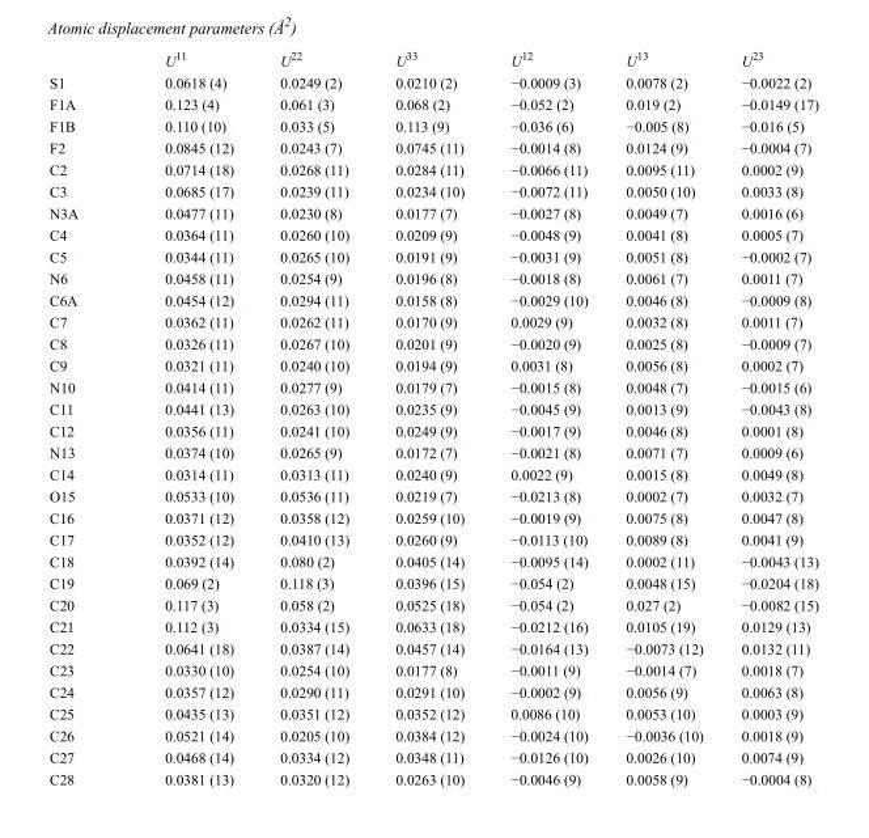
<table><thead><tr><td></td><td>U<sup>11</sup></td><td>U<sup>22</sup></td><td>U<sup>33</sup></td><td>U<sup>12</sup></td><td>U<sup>13</sup></td><td>U<sup>23</sup></td></tr></thead><tbody><tr><td>S1</td><td>0.0618 (4)</td><td>0.0249 (2)</td><td>0.0210 (2)</td><td>−0.0009 (3)</td><td>0.0078 (2)</td><td>−0.0022 (2)</td></tr><tr><td>F1A</td><td>0.123 (4)</td><td>0.061 (3)</td><td>0.068 (2)</td><td>−0.052 (2)</td><td>0.019 (2)</td><td>−0.0149 (17)</td></tr><tr><td>F1B</td><td>0.110 (10)</td><td>0.033 (5)</td><td>0.113 (9)</td><td>−0.036 (6)</td><td>−0.005 (8)</td><td>−0.016 (5)</td></tr><tr><td>F2</td><td>0.0845 (12)</td><td>0.0243 (7)</td><td>0.0745 (11)</td><td>−0.0014 (8)</td><td>0.0124 (9)</td><td>−0.0004 (7)</td></tr><tr><td>C2</td><td>0.0714 (18)</td><td>0.0268 (11)</td><td>0.0284 (11)</td><td>−0.0066 (11)</td><td>0.0095 (11)</td><td>0.0002 (9)</td></tr><tr><td>C3</td><td>0.0685 (17)</td><td>0.0239 (11)</td><td>0.0234 (10)</td><td>−0.0072 (11)</td><td>0.0050 (10)</td><td>0.0033 (8)</td></tr><tr><td>N3A</td><td>0.0477 (11)</td><td>0.0230 (8)</td><td>0.0177 (7)</td><td>−0.0027 (8)</td><td>0.0049 (7)</td><td>0.0016 (6)</td></tr><tr><td>C4</td><td>0.0364 (11)</td><td>0.0260 (10)</td><td>0.0209 (9)</td><td>−0.0048 (9)</td><td>0.0041 (8)</td><td>0.0005 (7)</td></tr><tr><td>C5</td><td>0.0344 (11)</td><td>0.0265 (10)</td><td>0.0191 (9)</td><td>−0.0031 (9)</td><td>0.0051 (8)</td><td>−0.0002 (7)</td></tr><tr><td>N6</td><td>0.0458 (11)</td><td>0.0254 (9)</td><td>0.0196 (8)</td><td>−0.0018 (8)</td><td>0.0061 (7)</td><td>0.0011 (7)</td></tr><tr><td>C6A</td><td>0.0454 (12)</td><td>0.0294 (11)</td><td>0.0158 (8)</td><td>−0.0029 (10)</td><td>0.0046 (8)</td><td>−0.0009 (8)</td></tr><tr><td>C7</td><td>0.0362 (11)</td><td>0.0262 (11)</td><td>0.0170 (9)</td><td>0.0029 (9)</td><td>0.0032 (8)</td><td>0.0011 (7)</td></tr><tr><td>C8</td><td>0.0326 (11)</td><td>0.0267 (10)</td><td>0.0201 (9)</td><td>−0.0020 (9)</td><td>0.0025 (8)</td><td>−0.0009 (7)</td></tr><tr><td>C9</td><td>0.0321 (11)</td><td>0.0240 (10)</td><td>0.0194 (9)</td><td>0.0031 (8)</td><td>0.0056 (8)</td><td>0.0002 (7)</td></tr><tr><td>N10</td><td>0.0414 (11)</td><td>0.0277 (9)</td><td>0.0179 (7)</td><td>−0.0015 (8)</td><td>0.0048 (7)</td><td>−0.0015 (6)</td></tr><tr><td>C11</td><td>0.0441 (13)</td><td>0.0263 (10)</td><td>0.0235 (9)</td><td>−0.0045 (9)</td><td>0.0013 (9)</td><td>−0.0043 (8)</td></tr><tr><td>C12</td><td>0.0356 (11)</td><td>0.0241 (10)</td><td>0.0249 (9)</td><td>−0.0017 (9)</td><td>0.0046 (8)</td><td>0.0001 (8)</td></tr><tr><td>N13</td><td>0.0374 (10)</td><td>0.0265 (9)</td><td>0.0172 (7)</td><td>−0.0021 (8)</td><td>0.0071 (7)</td><td>0.0009 (6)</td></tr><tr><td>C14</td><td>0.0314 (11)</td><td>0.0313 (11)</td><td>0.0240 (9)</td><td>0.0022 (9)</td><td>0.0015 (8)</td><td>0.0049 (8)</td></tr><tr><td>O15</td><td>0.0533 (10)</td><td>0.0536 (11)</td><td>0.0219 (7)</td><td>−0.0213 (8)</td><td>0.0002 (7)</td><td>0.0032 (7)</td></tr><tr><td>C16</td><td>0.0371 (12)</td><td>0.0358 (12)</td><td>0.0259 (10)</td><td>−0.0019 (9)</td><td>0.0075 (8)</td><td>0.0047 (8)</td></tr><tr><td>C17</td><td>0.0352 (12)</td><td>0.0410 (13)</td><td>0.0260 (9)</td><td>−0.0113 (10)</td><td>0.0089 (8)</td><td>0.0041 (9)</td></tr><tr><td>C18</td><td>0.0392 (14)</td><td>0.080 (2)</td><td>0.0405 (14)</td><td>−0.0095 (14)</td><td>0.0002 (11)</td><td>−0.0043 (13)</td></tr><tr><td>C19</td><td>0.069 (2)</td><td>0.118 (3)</td><td>0.0396 (15)</td><td>−0.054 (2)</td><td>0.0048 (15)</td><td>−0.0204 (18)</td></tr><tr><td>C20</td><td>0.117 (3)</td><td>0.058 (2)</td><td>0.0525 (18)</td><td>−0.054 (2)</td><td>0.027 (2)</td><td>−0.0082 (15)</td></tr><tr><td>C21</td><td>0.112 (3)</td><td>0.0334 (15)</td><td>0.0633 (18)</td><td>−0.0212 (16)</td><td>0.0105 (19)</td><td>0.0129 (13)</td></tr><tr><td>C22</td><td>0.0641 (18)</td><td>0.0387 (14)</td><td>0.0457 (14)</td><td>−0.0164 (13)</td><td>−0.0073 (12)</td><td>0.0132 (11)</td></tr><tr><td>C23</td><td>0.0330 (10)</td><td>0.0254 (10)</td><td>0.0177 (8)</td><td>−0.0011 (9)</td><td>−0.0014 (7)</td><td>0.0018 (7)</td></tr><tr><td>C24</td><td>0.0357 (12)</td><td>0.0290 (11)</td><td>0.0291 (10)</td><td>−0.0002 (9)</td><td>0.0056 (9)</td><td>0.0063 (8)</td></tr><tr><td>C25</td><td>0.0435 (13)</td><td>0.0351 (12)</td><td>0.0352 (12)</td><td>0.0086 (10)</td><td>0.0053 (10)</td><td>0.0003 (9)</td></tr><tr><td>C26</td><td>0.0521 (14)</td><td>0.0205 (10)</td><td>0.0384 (12)</td><td>−0.0024 (10)</td><td>−0.0036 (10)</td><td>0.0018 (9)</td></tr><tr><td>C27</td><td>0.0468 (14)</td><td>0.0334 (12)</td><td>0.0348 (11)</td><td>−0.0126 (10)</td><td>0.0026 (10)</td><td>0.0074 (9)</td></tr><tr><td>C28</td><td>0.0381 (13)</td><td>0.0320 (12)</td><td>0.0263 (10)</td><td>−0.0046 (9)</td><td>0.0058 (9)</td><td>−0.0004 (8)</td></tr></tbody></table>